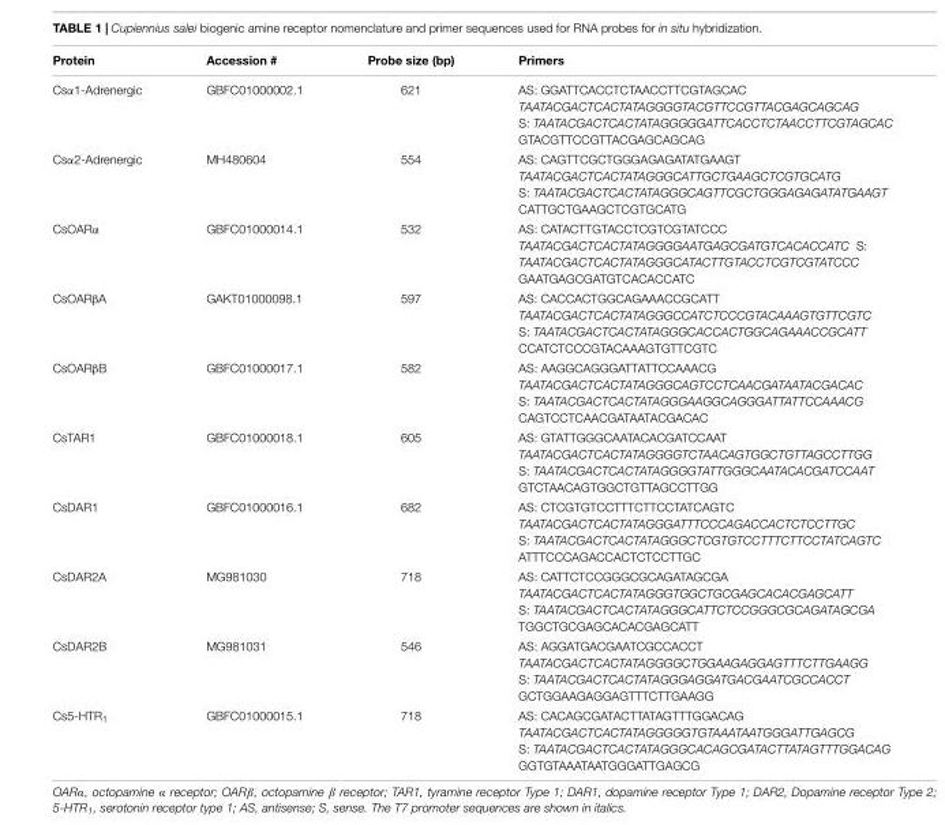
<table><thead><tr><td>Protein</td><td>Accession #</td><td>Probe size (bp)</td><td>Primers</td></tr></thead><tbody><tr><td>Csα1-Adrenergic</td><td>GBFC01000002.1</td><td>621</td><td>AS: GGATTCACCTCTAACCTTCGTAGCAC TAATACGACTCACTATAGGGGTACGTTCCGTTACGAGCAGCAG S: TAATACGACTCACTATAGGGGGATTCACCTCTAACCTTCGTAGCAC GTACGTTCCGTTACGAGCAGCAG</td></tr><tr><td>Csα2-Adrenergic</td><td>MH480604</td><td>554</td><td>AS: CAGTTCGCTGGGAGAGATATGAAGT TAATACGACTCACTATAGGGCATTGCTGAAGCTCGTGCATG S: TAATACGACTCACTATAGGGCAGTTCGCTGGGAGAGATATGAAGT CATTGCTGAAGCTCGTGCATG</td></tr><tr><td>CsOARα</td><td>GBFC01000014.1</td><td>532</td><td>AS: CATACTTGTACCTCGTCGTATCCC TAATACGACTCACTATAGGGGAATGAGCGATGTCACACCATC S: TAATACGACTCACTATAGGGCATACTTGTACCTCGTCGTATCCC GAATGAGCGATGTCACACCATC</td></tr><tr><td>CsOARβA</td><td>GAKT01000098.1</td><td>597</td><td>AS: CACCACTGGCAGAAACCGCATT TAATACGACTCACTATAGGGCCATCTCCCGTACAAAGTGTTCGTC S: TAATACGACTCACTATAGGGCACCACTGGCAGAAACCGCATT CCATCTCCCGTACAAAGTGTTCGTC</td></tr><tr><td>CsOARβB</td><td>GBFC01000017.1</td><td>582</td><td>AS: AAGGCAGGGATTATTCCAAACG TAATACGACTCACTATAGGGCAGTCCTCAACGATAATACGACAC S: TAATACGACTCACTATAGGGAAGGCAGGGATTATTCCAAACG CAGTCCTCAACGATAATACGACAC</td></tr><tr><td>CsTAR1</td><td>GBFC01000018.1</td><td>605</td><td>AS: GTATTGGGCAATACACGATCCAAT TAATACGACTCACTATAGGGGTCTAACAGTGGCTGTTAGCCTTGG S: TAATACGACTCACTATAGGGGTATTGGGCAATACACGATCCAAT GTCTAACAGTGGCTGTTAGCCTTGG</td></tr><tr><td>CsDAR1</td><td>GBFC01000016.1</td><td>682</td><td>AS: CTCGTGTCCTTTCTTCCTATCAGTC TAATACGACTCACTATAGGGATTTCCCAGACCACTCTCCTTGC S: TAATACGACTCACTATAGGGCTCGTGTCCTTTCTTCCTATCAGTC ATTTCCCAGACCACTCTCCTTGC</td></tr><tr><td>CsDAR2A</td><td>MG981030</td><td>718</td><td>AS: CATTCTCCGGGCGCAGATAGCGA TAATACGACTCACTATAGGGTGGCTGCGAGCACACGAGCATT S: TAATACGACTCACTATAGGGCATTCTCCGGGCGCAGATAGCGA TGGCTGCGAGCACACGAGCATT</td></tr><tr><td>CsDAR2B</td><td>MG981031</td><td>546</td><td>AS: AGGATGACGAATCGCCACCT TAATACGACTCACTATAGGGGCTGGAAGAGGAGTTTCTTGAAGG S: TAATACGACTCACTATAGGGAGGATGACGAATCGCCACCT GCTGGAAGAGGAGTTTCTTGAAGG</td></tr><tr><td>Cs5-HTR<sub>1</sub></td><td>GBFC01000015.1</td><td>718</td><td>AS: CACAGCGATACTTATAGTTTGGACAG TAATACGACTCACTATAGGGGGTGTAAATAATGGGATTGAGCG S: TAATACGACTCACTATAGGGCACAGCGATACTTATAGTTTGGACAG GGTGTAAATAATGGGATTGAGCG</td></tr></tbody></table>